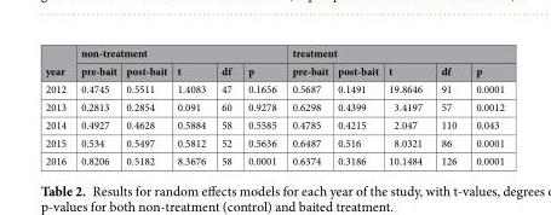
<table><thead><tr><td rowspan="2">year</td><td colspan="5">non-treatment</td><td colspan="5">treatment</td></tr><tr><td>pre-bait</td><td>post-bait</td><td>t</td><td>df</td><td>p</td><td>pre-bait</td><td>post-bait</td><td>t</td><td>df</td><td>p</td></tr></thead><tbody><tr><td>2012</td><td>0.4745</td><td>0.5511</td><td>1.4083</td><td>47</td><td>0.1656</td><td>0.5687</td><td>0.1491</td><td>19.8646</td><td>91</td><td>0.0001</td></tr><tr><td>2013</td><td>0.2813</td><td>0.2854</td><td>0.091</td><td>60</td><td>0.9278</td><td>0.6298</td><td>0.4399</td><td>3.4197</td><td>57</td><td>0.0012</td></tr><tr><td>2014</td><td>0.4927</td><td>0.4628</td><td>0.5884</td><td>58</td><td>0.5585</td><td>0.4785</td><td>0.4215</td><td>2.047</td><td>110</td><td>0.043</td></tr><tr><td>2015</td><td>0.534</td><td>0.5497</td><td>0.5812</td><td>52</td><td>0.5636</td><td>0.6487</td><td>0.516</td><td>8.0321</td><td>86</td><td>0.0001</td></tr><tr><td>2016</td><td>0.8206</td><td>0.5182</td><td>8.3676</td><td>58</td><td>0.0001</td><td>0.6374</td><td>0.3186</td><td>10.1484</td><td>126</td><td>0.0001</td></tr></tbody></table>